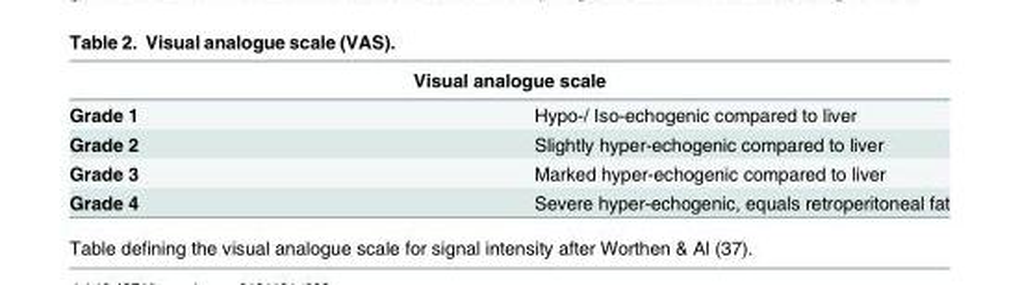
<table><thead><tr><td colspan="2">Visual analogue scale</td></tr><tr><td>Grade 1</td><td>Hypo-/ Iso-echogenic compared to liver</td></tr></thead><tbody><tr><td>Grade 2</td><td>Slightly hyper-echogenic compared to liver</td></tr><tr><td>Grade 3</td><td>Marked hyper-echogenic compared to liver</td></tr><tr><td>Grade 4</td><td>Severe hyper-echogenic, equals retroperitoneal fat</td></tr></tbody></table>